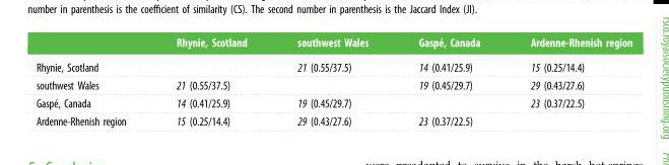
<table><thead><tr><td></td><td>Rhynie, Scotland</td><td>southwest Wales</td><td>Gaspe´, Canada</td><td>Ardenne-Rhenish region</td></tr></thead><tbody><tr><td>Rhynie, Scotland</td><td></td><td>21 (0.55/37.5)</td><td>14 (0.41/25.9)</td><td>15 (0.25/14.4)</td></tr><tr><td>southwest Wales</td><td>21 (0.55/37.5)</td><td></td><td>19 (0.45/29.7)</td><td>29 (0.43/27.6)</td></tr><tr><td>Gaspe´, Canada</td><td>14 (0.41/25.9)</td><td>19 (0.45/29.7)</td><td></td><td>23 (0.37/22.5)</td></tr><tr><td>Ardenne-Rhenish region</td><td>15 (0.25/14.4)</td><td>29 (0.43/27.6)</td><td>23 (0.37/22.5)</td><td></td></tr></tbody></table>